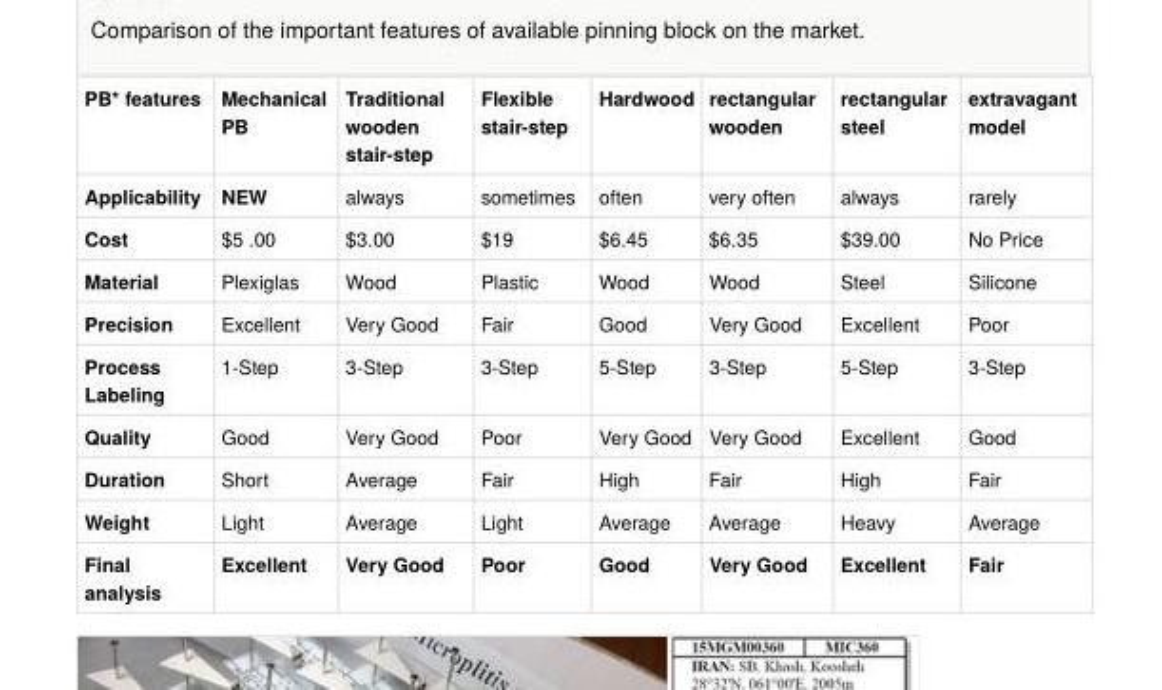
<table><tbody><tr><td>PB* features</td><td>Mechanical PB</td><td>Traditional wooden stair-step</td><td>Flexible stair-step</td><td>Hardwood</td><td>rectangular wooden</td><td>rectangular steel</td><td>extravagant model</td></tr><tr><td>Applicability</td><td>NEW</td><td>always</td><td>sometimes</td><td>often</td><td>very often</td><td>always</td><td>rarely</td></tr><tr><td>Cost</td><td>$5 .00</td><td>$3.00</td><td>$19</td><td>$6.45</td><td>$6.35</td><td>$39.00</td><td>No Price</td></tr><tr><td>Material</td><td>Plexiglas</td><td>Wood</td><td>Plastic</td><td>Wood</td><td>Wood</td><td>Steel</td><td>Silicone</td></tr><tr><td>Precision</td><td>Excellent</td><td>Very Good</td><td>Fair</td><td>Good</td><td>Very Good</td><td>Excellent</td><td>Poor</td></tr><tr><td>Process Labeling</td><td>1-Step</td><td>3-Step</td><td>3-Step</td><td>5-Step</td><td>3-Step</td><td>5-Step</td><td>3-Step</td></tr><tr><td>Quality</td><td>Good</td><td>Very Good</td><td>Poor</td><td>Very Good</td><td>Very Good</td><td>Excellent</td><td>Good</td></tr><tr><td>Duration</td><td>Short</td><td>Average</td><td>Fair</td><td>High</td><td>Fair</td><td>High</td><td>Fair</td></tr><tr><td>Weight</td><td>Light</td><td>Average</td><td>Light</td><td>Average</td><td>Average</td><td>Heavy</td><td>Average</td></tr><tr><td>Final analysis</td><td>Excellent</td><td>Very Good</td><td>Poor</td><td>Good</td><td>Very Good</td><td>Excellent</td><td>Fair</td></tr></tbody></table>